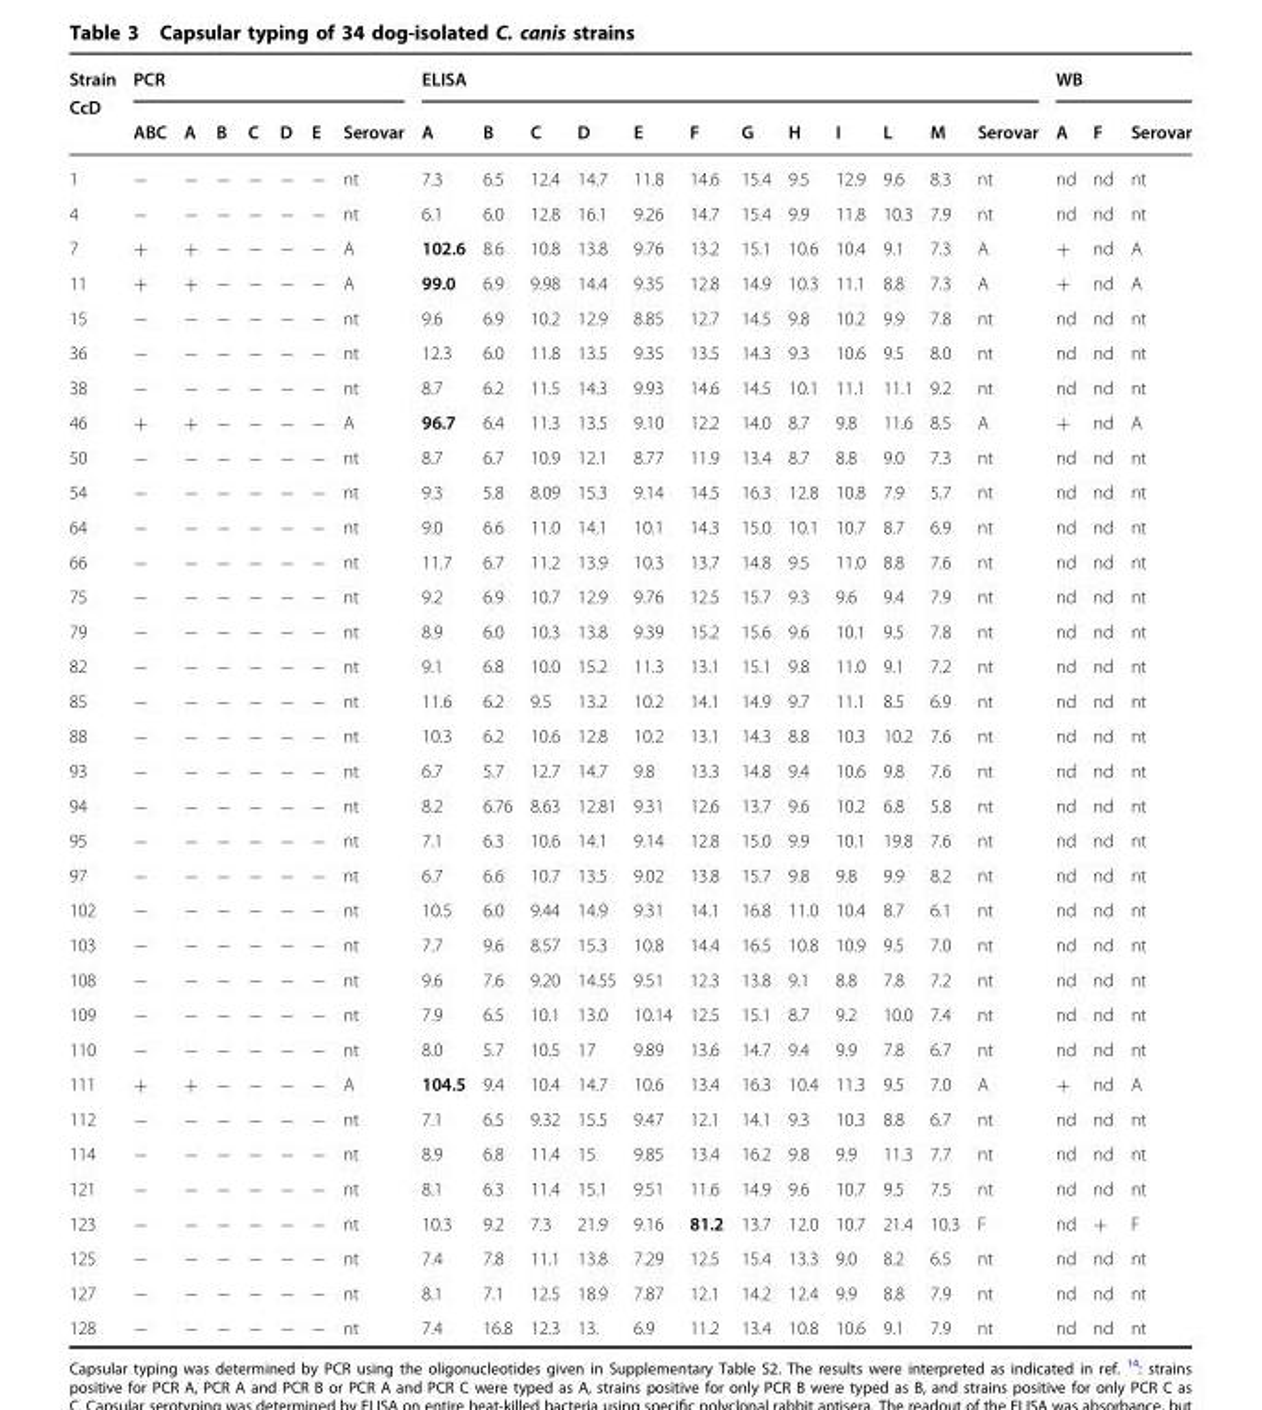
<table><thead><tr><td rowspan="2">Strain CcD</td><td colspan="7">PCR</td><td colspan="12">ELISA</td><td colspan="3">WB</td></tr><tr><td>ABC</td><td>A</td><td>B</td><td>C</td><td>D</td><td>E</td><td>Serovar</td><td>A</td><td>B</td><td>C</td><td>D</td><td>E</td><td>F</td><td>G</td><td>H</td><td>I</td><td>L</td><td>M</td><td>Serovar</td><td>A</td><td>F</td><td>Serovar</td></tr></thead><tbody><tr><td>1</td><td>−</td><td>−</td><td>−</td><td>−</td><td>−</td><td>−</td><td>nt</td><td>7.3</td><td>6.5</td><td>12.4</td><td>14.7</td><td>11.8</td><td>14.6</td><td>15.4</td><td>9.5</td><td>12.9</td><td>9.6</td><td>8.3</td><td>nt</td><td>nd</td><td>nd</td><td>nt</td></tr><tr><td>4</td><td>−</td><td>−</td><td>−</td><td>−</td><td>−</td><td>−</td><td>nt</td><td>6.1</td><td>6.0</td><td>12.8</td><td>16.1</td><td>9.26</td><td>14.7</td><td>15.4</td><td>9.9</td><td>11.8</td><td>10.3</td><td>7.9</td><td>nt</td><td>nd</td><td>nd</td><td>nt</td></tr><tr><td>7</td><td>+</td><td>+</td><td>−</td><td>−</td><td>−</td><td>−</td><td>A</td><td>102.6</td><td>8.6</td><td>10.8</td><td>13.8</td><td>9.76</td><td>13.2</td><td>15.1</td><td>10.6</td><td>10.4</td><td>9.1</td><td>7.3</td><td>A</td><td>+</td><td>nd</td><td>A</td></tr><tr><td>11</td><td>+</td><td>+</td><td>−</td><td>−</td><td>−</td><td>−</td><td>A</td><td>99.0</td><td>6.9</td><td>9.98</td><td>14.4</td><td>9.35</td><td>12.8</td><td>14.9</td><td>10.3</td><td>11.1</td><td>8.8</td><td>7.3</td><td>A</td><td>+</td><td>nd</td><td>A</td></tr><tr><td>15</td><td>−</td><td>−</td><td>−</td><td>−</td><td>−</td><td>−</td><td>nt</td><td>9.6</td><td>6.9</td><td>10.2</td><td>12.9</td><td>8.85</td><td>12.7</td><td>14.5</td><td>9.8</td><td>10.2</td><td>9.9</td><td>7.8</td><td>nt</td><td>nd</td><td>nd</td><td>nt</td></tr><tr><td>36</td><td>−</td><td>−</td><td>−</td><td>−</td><td>−</td><td>−</td><td>nt</td><td>12.3</td><td>6.0</td><td>11.8</td><td>13.5</td><td>9.35</td><td>13.5</td><td>14.3</td><td>9.3</td><td>10.6</td><td>9.5</td><td>8.0</td><td>nt</td><td>nd</td><td>nd</td><td>nt</td></tr><tr><td>38</td><td>−</td><td>−</td><td>−</td><td>−</td><td>−</td><td>−</td><td>nt</td><td>8.7</td><td>6.2</td><td>11.5</td><td>14.3</td><td>9.93</td><td>14.6</td><td>14.5</td><td>10.1</td><td>11.1</td><td>11.1</td><td>9.2</td><td>nt</td><td>nd</td><td>nd</td><td>nt</td></tr><tr><td>46</td><td>+</td><td>+</td><td>−</td><td>−</td><td>−</td><td>−</td><td>A</td><td>96.7</td><td>6.4</td><td>11.3</td><td>13.5</td><td>9.10</td><td>12.2</td><td>14.0</td><td>8.7</td><td>9.8</td><td>11.6</td><td>8.5</td><td>A</td><td>+</td><td>nd</td><td>A</td></tr><tr><td>50</td><td>−</td><td>−</td><td>−</td><td>−</td><td>−</td><td>−</td><td>nt</td><td>8.7</td><td>6.7</td><td>10.9</td><td>12.1</td><td>8.77</td><td>11.9</td><td>13.4</td><td>8.7</td><td>8.8</td><td>9.0</td><td>7.3</td><td>nt</td><td>nd</td><td>nd</td><td>nt</td></tr><tr><td>54</td><td>−</td><td>−</td><td>−</td><td>−</td><td>−</td><td>−</td><td>nt</td><td>9.3</td><td>5.8</td><td>8.09</td><td>15.3</td><td>9.14</td><td>14.5</td><td>16.3</td><td>12.8</td><td>10.8</td><td>7.9</td><td>5.7</td><td>nt</td><td>nd</td><td>nd</td><td>nt</td></tr><tr><td>64</td><td>−</td><td>−</td><td>−</td><td>−</td><td>−</td><td>−</td><td>nt</td><td>9.0</td><td>6.6</td><td>11.0</td><td>14.1</td><td>10.1</td><td>14.3</td><td>15.0</td><td>10.1</td><td>10.7</td><td>8.7</td><td>6.9</td><td>nt</td><td>nd</td><td>nd</td><td>nt</td></tr><tr><td>66</td><td>−</td><td>−</td><td>−</td><td>−</td><td>−</td><td>−</td><td>nt</td><td>11.7</td><td>6.7</td><td>11.2</td><td>13.9</td><td>10.3</td><td>13.7</td><td>14.8</td><td>9.5</td><td>11.0</td><td>8.8</td><td>7.6</td><td>nt</td><td>nd</td><td>nd</td><td>nt</td></tr><tr><td>75</td><td>−</td><td>−</td><td>−</td><td>−</td><td>−</td><td>−</td><td>nt</td><td>9.2</td><td>6.9</td><td>10.7</td><td>12.9</td><td>9.76</td><td>12.5</td><td>15.7</td><td>9.3</td><td>9.6</td><td>9.4</td><td>7.9</td><td>nt</td><td>nd</td><td>nd</td><td>nt</td></tr><tr><td>79</td><td>−</td><td>−</td><td>−</td><td>−</td><td>−</td><td>−</td><td>nt</td><td>8.9</td><td>6.0</td><td>10.3</td><td>13.8</td><td>9.39</td><td>15.2</td><td>15.6</td><td>9.6</td><td>10.1</td><td>9.5</td><td>7.8</td><td>nt</td><td>nd</td><td>nd</td><td>nt</td></tr><tr><td>82</td><td>−</td><td>−</td><td>−</td><td>−</td><td>−</td><td>−</td><td>nt</td><td>9.1</td><td>6.8</td><td>10.0</td><td>15.2</td><td>11.3</td><td>13.1</td><td>15.1</td><td>9.8</td><td>11.0</td><td>9.1</td><td>7.2</td><td>nt</td><td>nd</td><td>nd</td><td>nt</td></tr><tr><td>85</td><td>−</td><td>−</td><td>−</td><td>−</td><td>−</td><td>−</td><td>nt</td><td>11.6</td><td>6.2</td><td>9.5</td><td>13.2</td><td>10.2</td><td>14.1</td><td>14.9</td><td>9.7</td><td>11.1</td><td>8.5</td><td>6.9</td><td>nt</td><td>nd</td><td>nd</td><td>nt</td></tr><tr><td>88</td><td>−</td><td>−</td><td>−</td><td>−</td><td>−</td><td>−</td><td>nt</td><td>10.3</td><td>6.2</td><td>10.6</td><td>12.8</td><td>10.2</td><td>13.1</td><td>14.3</td><td>8.8</td><td>10.3</td><td>10.2</td><td>7.6</td><td>nt</td><td>nd</td><td>nd</td><td>nt</td></tr><tr><td>93</td><td>−</td><td>−</td><td>−</td><td>−</td><td>−</td><td>−</td><td>nt</td><td>6.7</td><td>5.7</td><td>12.7</td><td>14.7</td><td>9.8</td><td>13.3</td><td>14.8</td><td>9.4</td><td>10.6</td><td>9.8</td><td>7.6</td><td>nt</td><td>nd</td><td>nd</td><td>nt</td></tr><tr><td>94</td><td>−</td><td>−</td><td>−</td><td>−</td><td>−</td><td>−</td><td>nt</td><td>8.2</td><td>6.76</td><td>8.63</td><td>12.81</td><td>9.31</td><td>12.6</td><td>13.7</td><td>9.6</td><td>10.2</td><td>6.8</td><td>5.8</td><td>nt</td><td>nd</td><td>nd</td><td>nt</td></tr><tr><td>95</td><td>−</td><td>−</td><td>−</td><td>−</td><td>−</td><td>−</td><td>nt</td><td>7.1</td><td>6.3</td><td>10.6</td><td>14.1</td><td>9.14</td><td>12.8</td><td>15.0</td><td>9.9</td><td>10.1</td><td>19.8</td><td>7.6</td><td>nt</td><td>nd</td><td>nd</td><td>nt</td></tr><tr><td>97</td><td>−</td><td>−</td><td>−</td><td>−</td><td>−</td><td>−</td><td>nt</td><td>6.7</td><td>6.6</td><td>10.7</td><td>13.5</td><td>9.02</td><td>13.8</td><td>15.7</td><td>9.8</td><td>9.8</td><td>9.9</td><td>8.2</td><td>nt</td><td>nd</td><td>nd</td><td>nt</td></tr><tr><td>102</td><td>−</td><td>−</td><td>−</td><td>−</td><td>−</td><td>−</td><td>nt</td><td>10.5</td><td>6.0</td><td>9.44</td><td>14.9</td><td>9.31</td><td>14.1</td><td>16.8</td><td>11.0</td><td>10.4</td><td>8.7</td><td>6.1</td><td>nt</td><td>nd</td><td>nd</td><td>nt</td></tr><tr><td>103</td><td>−</td><td>−</td><td>−</td><td>−</td><td>−</td><td>−</td><td>nt</td><td>7.7</td><td>9.6</td><td>8.57</td><td>15.3</td><td>10.8</td><td>14.4</td><td>16.5</td><td>10.8</td><td>10.9</td><td>9.5</td><td>7.0</td><td>nt</td><td>nd</td><td>nd</td><td>nt</td></tr><tr><td>108</td><td>−</td><td>−</td><td>−</td><td>−</td><td>−</td><td>−</td><td>nt</td><td>9.6</td><td>7.6</td><td>9.20</td><td>14.55</td><td>9.51</td><td>12.3</td><td>13.8</td><td>9.1</td><td>8.8</td><td>7.8</td><td>7.2</td><td>nt</td><td>nd</td><td>nd</td><td>nt</td></tr><tr><td>109</td><td>−</td><td>−</td><td>−</td><td>−</td><td>−</td><td>−</td><td>nt</td><td>7.9</td><td>6.5</td><td>10.1</td><td>13.0</td><td>10.14</td><td>12.5</td><td>15.1</td><td>8.7</td><td>9.2</td><td>10.0</td><td>7.4</td><td>nt</td><td>nd</td><td>nd</td><td>nt</td></tr><tr><td>110</td><td>−</td><td>−</td><td>−</td><td>−</td><td>−</td><td>−</td><td>nt</td><td>8.0</td><td>5.7</td><td>10.5</td><td>17</td><td>9.89</td><td>13.6</td><td>14.7</td><td>9.4</td><td>9.9</td><td>7.8</td><td>6.7</td><td>nt</td><td>nd</td><td>nd</td><td>nt</td></tr><tr><td>111</td><td>+</td><td>+</td><td>−</td><td>−</td><td>−</td><td>−</td><td>A</td><td>104.5</td><td>9.4</td><td>10.4</td><td>14.7</td><td>10.6</td><td>13.4</td><td>16.3</td><td>10.4</td><td>11.3</td><td>9.5</td><td>7.0</td><td>A</td><td>+</td><td>nd</td><td>A</td></tr><tr><td>112</td><td>−</td><td>−</td><td>−</td><td>−</td><td>−</td><td>−</td><td>nt</td><td>7.1</td><td>6.5</td><td>9.32</td><td>15.5</td><td>9.47</td><td>12.1</td><td>14.1</td><td>9.3</td><td>10.3</td><td>8.8</td><td>6.7</td><td>nt</td><td>nd</td><td>nd</td><td>nt</td></tr><tr><td>114</td><td>−</td><td>−</td><td>−</td><td>−</td><td>−</td><td>−</td><td>nt</td><td>8.9</td><td>6.8</td><td>11.4</td><td>15</td><td>9.85</td><td>13.4</td><td>16.2</td><td>9.8</td><td>9.9</td><td>11.3</td><td>7.7</td><td>nt</td><td>nd</td><td>nd</td><td>nt</td></tr><tr><td>121</td><td>−</td><td>−</td><td>−</td><td>−</td><td>−</td><td>−</td><td>nt</td><td>8.1</td><td>6.3</td><td>11.4</td><td>15.1</td><td>9.51</td><td>11.6</td><td>14.9</td><td>9.6</td><td>10.7</td><td>9.5</td><td>7.5</td><td>nt</td><td>nd</td><td>nd</td><td>nt</td></tr><tr><td>123</td><td>−</td><td>−</td><td>−</td><td>−</td><td>−</td><td>−</td><td>nt</td><td>10.3</td><td>9.2</td><td>7.3</td><td>21.9</td><td>9.16</td><td>81.2</td><td>13.7</td><td>12.0</td><td>10.7</td><td>21.4</td><td>10.3</td><td>F</td><td>nd</td><td>+</td><td>F</td></tr><tr><td>125</td><td>−</td><td>−</td><td>−</td><td>−</td><td>−</td><td>−</td><td>nt</td><td>7.4</td><td>7.8</td><td>11.1</td><td>13.8</td><td>7.29</td><td>12.5</td><td>15.4</td><td>13.3</td><td>9.0</td><td>8.2</td><td>6.5</td><td>nt</td><td>nd</td><td>nd</td><td>nt</td></tr><tr><td>127</td><td>−</td><td>−</td><td>−</td><td>−</td><td>−</td><td>−</td><td>nt</td><td>8.1</td><td>7.1</td><td>12.5</td><td>18.9</td><td>7.87</td><td>12.1</td><td>14.2</td><td>12.4</td><td>9.9</td><td>8.8</td><td>7.9</td><td>nt</td><td>nd</td><td>nd</td><td>nt</td></tr><tr><td>128</td><td>−</td><td>−</td><td>−</td><td>−</td><td>−</td><td>−</td><td>nt</td><td>7.4</td><td>16.8</td><td>12.3</td><td>13.</td><td>6.9</td><td>11.2</td><td>13.4</td><td>10.8</td><td>10.6</td><td>9.1</td><td>7.9</td><td>nt</td><td>nd</td><td>nd</td><td>nt</td></tr></tbody></table>